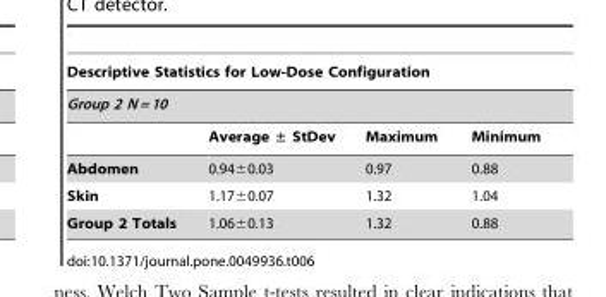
<table><thead><tr><td rowspan="2" colspan="4">Descriptive Statistics for Low-Dose Configuration Group 2 N = 10</td></tr><tr></tr><tr><td></td><td>Average ± StDev</td><td>Maximum</td><td>Minimum</td></tr></thead><tbody><tr><td>Abdomen</td><td>0.94±0.03</td><td>0.97</td><td>0.88</td></tr><tr><td>Skin</td><td>1.17±0.07</td><td>1.32</td><td>1.04</td></tr><tr><td>Group 2 Totals</td><td>1.06±0.13</td><td>1.32</td><td>0.88</td></tr></tbody></table>